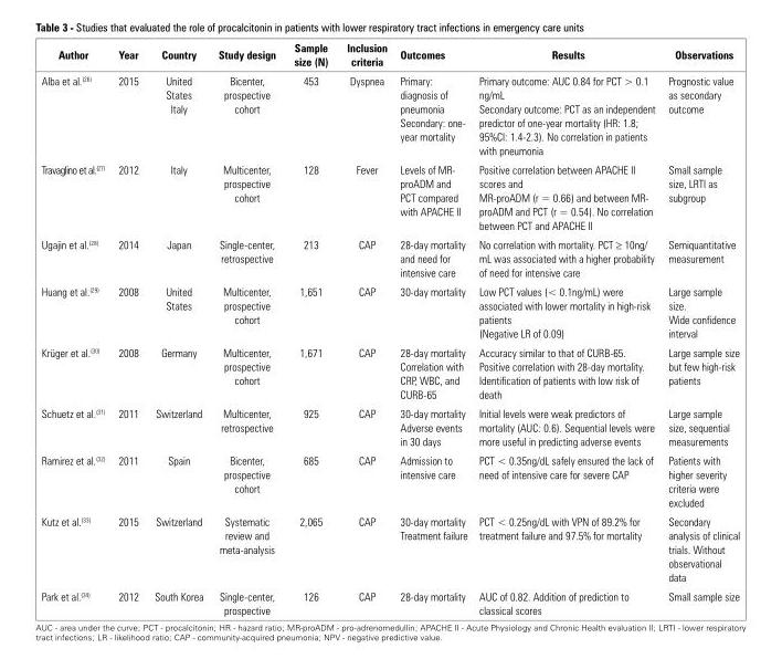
<table><thead><tr><td>Author</td><td>Year</td><td>Country</td><td>Study design</td><td>Sample size (N)</td><td>Inclusion criteria</td><td>Outcomes</td><td>Results</td><td>Observations</td></tr></thead><tbody><tr><td>Alba et al.<sup>(26)</sup></td><td>2015</td><td>United States Italy</td><td>Bicenter, prospective cohort</td><td>453</td><td>Dyspnea</td><td>Primary: diagnosis of pneumonia Secondary: one- year mortality</td><td>Primary outcome: AUC 0.84 for PCT &gt; 0.1 ng/mL Secondary outcome: PCT as an independent predictor of one-year mortality (HR: 1.8; 95%CI: 1.4-2.3). No correlation in patients with pneumonia</td><td>Prognostic value as secondary outcome</td></tr><tr><td>Travaglino et al.<sup>(27)</sup></td><td>2012</td><td>Italy</td><td>Multicenter, prospective cohort</td><td>128</td><td>Fever</td><td>Levels of MR- proADM and PCT compared with APACHE II</td><td>Positive correlation between APACHE II scores and MR-proADM (r = 0.66) and between MR- proADM and PCT (r = 0.54). No correlation between PCT and APACHE II</td><td>Small sample size, LRTI as subgroup</td></tr><tr><td>Ugajin et al.<sup>(28)</sup></td><td>2014</td><td>Japan</td><td>Single-center, retrospective</td><td>213</td><td>CAP</td><td>28-day mortality and need for intensive care</td><td>No correlation with mortality. PCT ≥ 10ng/ mL was associated with a higher probability of need for intensive care</td><td>Semiquantitative measurement</td></tr><tr><td>Huang et al.<sup>(29)</sup></td><td>2008</td><td>United States</td><td>Multicenter, prospective cohort</td><td>1,651</td><td>CAP</td><td>30-day mortality</td><td>Low PCT values (&lt; 0.1ng/mL) were associated with lower mortality in high-risk patients (Negative LR of 0.09)</td><td>Large sample size. Wide confidence interval</td></tr><tr><td>Krüger et al.<sup>(30)</sup></td><td>2008</td><td>Germany</td><td>Multicenter, prospective cohort</td><td>1,671</td><td>CAP</td><td>28-day mortality Correlation with CRP, WBC, and CURB-65</td><td>Accuracy similar to that of CURB-65. Positive correlation with 28-day mortality. Identification of patients with low risk of death</td><td>Large sample size but few high-risk patients</td></tr><tr><td>Schuetz et al.<sup>(31)</sup></td><td>2011</td><td>Switzerland</td><td>Multicenter, retrospective</td><td>925</td><td>CAP</td><td>30-day mortality Adverse events in 30 days</td><td>Initial levels were weak predictors of mortality (AUC: 0.6). Sequential levels were more useful in predicting adverse events</td><td>Large sample size, sequential measurements</td></tr><tr><td>Ramirez et al.<sup>(32)</sup></td><td>2011</td><td>Spain</td><td>Bicenter, prospective cohort</td><td>685</td><td>CAP</td><td>Admission to intensive care</td><td>PCT &lt; 0.35ng/dL safely ensured the lack of need of intensive care for severe CAP</td><td>Patients with higher severity criteria were excluded</td></tr><tr><td>Kutz et al.<sup>(33)</sup></td><td>2015</td><td>Switzerland</td><td>Systematic review and meta-analysis</td><td>2,065</td><td>CAP</td><td>30-day mortality Treatment failure</td><td>PCT &lt; 0.25ng/dL with VPN of 89.2% for treatment failure and 97.5% for mortality</td><td>Secondary analysis of clinical trials. Without observational data</td></tr><tr><td>Park et al.<sup>(34)</sup></td><td>2012</td><td>South Korea</td><td>Single-center, prospective</td><td>126</td><td>CAP</td><td>28-day mortality</td><td>AUC of 0.82. Addition of prediction to classical scores</td><td>Small sample size</td></tr></tbody></table>